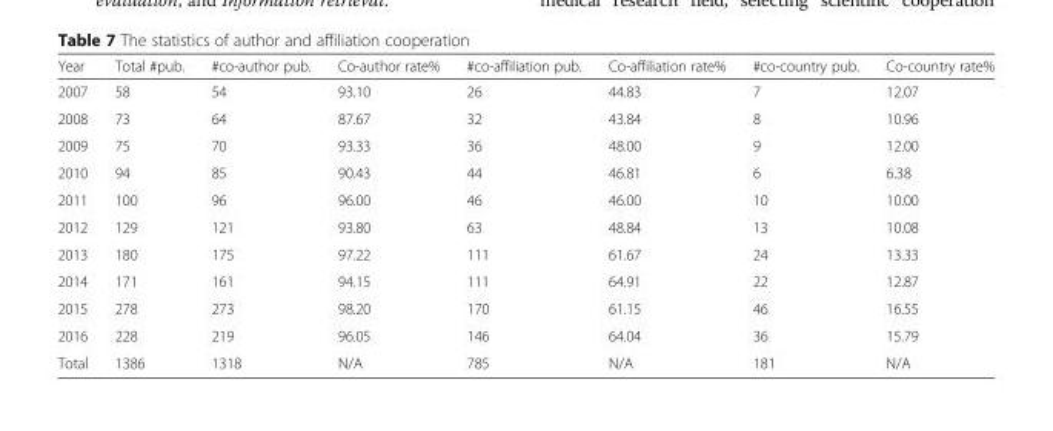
<table><thead><tr><td>Year</td><td>Total #pub.</td><td>#co-author pub.</td><td>Co-author rate%</td><td>#co-affiliation pub.</td><td>Co-affiliation rate%</td><td>#co-country pub.</td><td>Co-country rate%</td></tr></thead><tbody><tr><td>2007</td><td>58</td><td>54</td><td>93.10</td><td>26</td><td>44.83</td><td>7</td><td>12.07</td></tr><tr><td>2008</td><td>73</td><td>64</td><td>87.67</td><td>32</td><td>43.84</td><td>8</td><td>10.96</td></tr><tr><td>2009</td><td>75</td><td>70</td><td>93.33</td><td>36</td><td>48.00</td><td>9</td><td>12.00</td></tr><tr><td>2010</td><td>94</td><td>85</td><td>90.43</td><td>44</td><td>46.81</td><td>6</td><td>6.38</td></tr><tr><td>2011</td><td>100</td><td>96</td><td>96.00</td><td>46</td><td>46.00</td><td>10</td><td>10.00</td></tr><tr><td>2012</td><td>129</td><td>121</td><td>93.80</td><td>63</td><td>48.84</td><td>13</td><td>10.08</td></tr><tr><td>2013</td><td>180</td><td>175</td><td>97.22</td><td>111</td><td>61.67</td><td>24</td><td>13.33</td></tr><tr><td>2014</td><td>171</td><td>161</td><td>94.15</td><td>111</td><td>64.91</td><td>22</td><td>12.87</td></tr><tr><td>2015</td><td>278</td><td>273</td><td>98.20</td><td>170</td><td>61.15</td><td>46</td><td>16.55</td></tr><tr><td>2016</td><td>228</td><td>219</td><td>96.05</td><td>146</td><td>64.04</td><td>36</td><td>15.79</td></tr><tr><td>Total</td><td>1386</td><td>1318</td><td>N/A</td><td>785</td><td>N/A</td><td>181</td><td>N/A</td></tr></tbody></table>